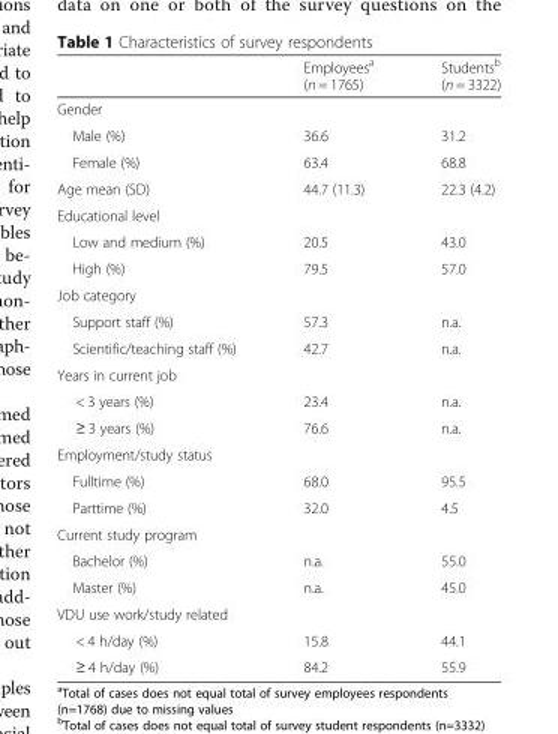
<table><thead><tr><td></td><td>Employees<sup>a</sup> (n = 1765)</td><td>Students<sup>b</sup> (n = 3322)</td></tr></thead><tbody><tr><td colspan="3">Gender</td></tr><tr><td>Male (%)</td><td>36.6</td><td>31.2</td></tr><tr><td>Female (%)</td><td>63.4</td><td>68.8</td></tr><tr><td>Age mean (SD)</td><td>44.7 (11.3)</td><td>22.3 (4.2)</td></tr><tr><td colspan="3">Educational level</td></tr><tr><td>Low and medium (%)</td><td>20.5</td><td>43.0</td></tr><tr><td>High (%)</td><td>79.5</td><td>57.0</td></tr><tr><td colspan="3">Job category</td></tr><tr><td>Support staff (%)</td><td>57.3</td><td>n.a.</td></tr><tr><td>Scientific/teaching staff (%)</td><td>42.7</td><td>n.a.</td></tr><tr><td colspan="3">Years in current job</td></tr><tr><td>&lt; 3 years (%)</td><td>23.4</td><td>n.a.</td></tr><tr><td>≥ 3 years (%)</td><td>76.6</td><td>n.a.</td></tr><tr><td colspan="3">Employment/study status</td></tr><tr><td>Fulltime (%)</td><td>68.0</td><td>95.5</td></tr><tr><td>Parttime (%)</td><td>32.0</td><td>4.5</td></tr><tr><td colspan="3">Current study program</td></tr><tr><td>Bachelor (%)</td><td>n.a.</td><td>55.0</td></tr><tr><td>Master (%)</td><td>n.a.</td><td>45.0</td></tr><tr><td colspan="3">VDU use work/study related</td></tr><tr><td>&lt; 4 h/day (%)</td><td>15.8</td><td>44.1</td></tr><tr><td>≥ 4 h/day (%)</td><td>84.2</td><td>55.9</td></tr></tbody></table>